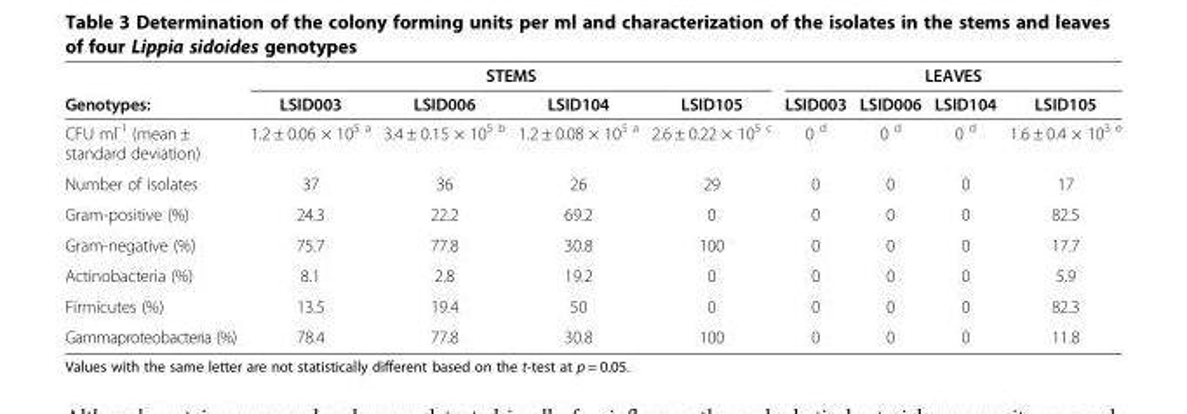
<table><thead><tr><td rowspan="2">Genotypes:</td><td colspan="4">STEMS</td><td colspan="4">LEAVES</td></tr><tr><td>LSID003</td><td>LSID006</td><td>LSID104</td><td>LSID105</td><td>LSID003</td><td>LSID006</td><td>LSID104</td><td>LSID105</td></tr></thead><tbody><tr><td>CFU ml<sup>-1</sup> (mean ± standard deviation)</td><td>1.2 ± 0.06 × 10<sup>5 a</sup></td><td>3.4 ± 0.15 × 10<sup>5 b</sup></td><td>1.2 ± 0.08 × 10<sup>5 a</sup></td><td>2.6 ± 0.22 × 10<sup>5 c</sup></td><td>0 <sup>d</sup></td><td>0 <sup>d</sup></td><td>0 <sup>d</sup></td><td>1.6 ± 0.4 × 10<sup>3 e</sup></td></tr><tr><td>Number of isolates</td><td>37</td><td>36</td><td>26</td><td>29</td><td>0</td><td>0</td><td>0</td><td>17</td></tr><tr><td>Gram-positive (%)</td><td>24.3</td><td>22.2</td><td>69.2</td><td>0</td><td>0</td><td>0</td><td>0</td><td>82.5</td></tr><tr><td>Gram-negative (%)</td><td>75.7</td><td>77.8</td><td>30.8</td><td>100</td><td>0</td><td>0</td><td>0</td><td>17.7</td></tr><tr><td>Actinobacteria (%)</td><td>8.1</td><td>2.8</td><td>19.2</td><td>0</td><td>0</td><td>0</td><td>0</td><td>5.9</td></tr><tr><td>Firmicutes (%)</td><td>13.5</td><td>19.4</td><td>50</td><td>0</td><td>0</td><td>0</td><td>0</td><td>82.3</td></tr><tr><td>Gammaproteobacteria (%)</td><td>78.4</td><td>77.8</td><td>30.8</td><td>100</td><td>0</td><td>0</td><td>0</td><td>11.8</td></tr></tbody></table>